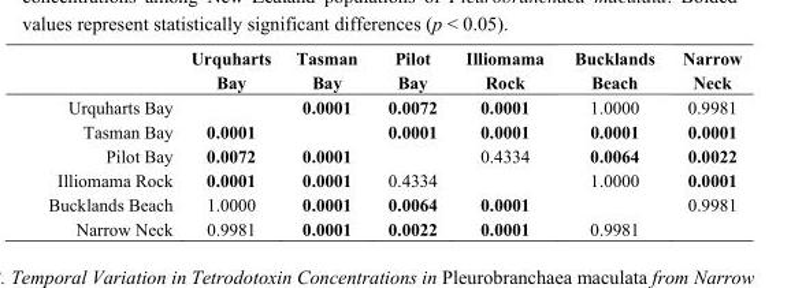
<table><thead><tr><td></td><td>Urquharts Bay</td><td>Tasman Bay</td><td>Pilot Bay</td><td>Illiomama Rock</td><td>Bucklands Beach</td><td>Narrow Neck</td></tr></thead><tbody><tr><td>Urquharts Bay</td><td></td><td>0.0001</td><td>0.0072</td><td>0.0001</td><td>1.0000</td><td>0.9981</td></tr><tr><td>Tasman Bay</td><td>0.0001</td><td></td><td>0.0001</td><td>0.0001</td><td>0.0001</td><td>0.0001</td></tr><tr><td>Pilot Bay</td><td>0.0072</td><td>0.0001</td><td></td><td>0.4334</td><td>0.0064</td><td>0.0022</td></tr><tr><td>Illiomama Rock</td><td>0.0001</td><td>0.0001</td><td>0.4334</td><td></td><td>1.0000</td><td>0.0001</td></tr><tr><td>Bucklands Beach</td><td>1.0000</td><td>0.0001</td><td>0.0064</td><td>0.0001</td><td></td><td>0.9981</td></tr><tr><td>Narrow Neck</td><td>0.9981</td><td>0.0001</td><td>0.0022</td><td>0.0001</td><td>0.9981</td><td></td></tr></tbody></table>